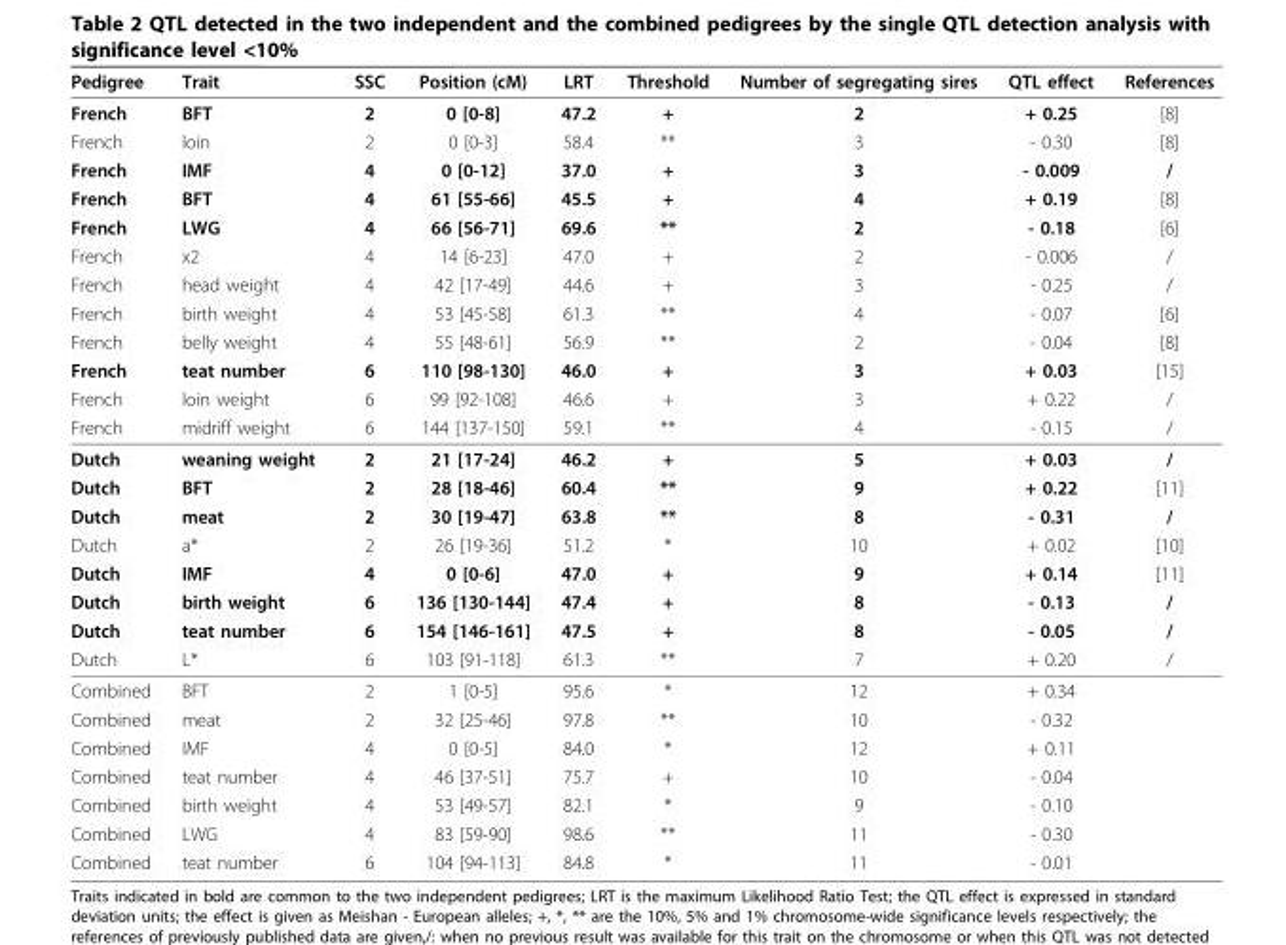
<table><thead><tr><td>Pedigree</td><td>Trait</td><td>SSC</td><td>Position (cM)</td><td>LRT</td><td>Threshold</td><td>Number of segregating sires</td><td>QTL effect</td><td>References</td></tr></thead><tbody><tr><td>French</td><td>BFT</td><td>2</td><td>0 [0-8]</td><td>47.2</td><td>+</td><td>2</td><td>+ 0.25</td><td>[8]</td></tr><tr><td>French</td><td>loin</td><td>2</td><td>0 [0-3]</td><td>58.4</td><td>**</td><td>3</td><td>- 0.30</td><td>[8]</td></tr><tr><td>French</td><td>IMF</td><td>4</td><td>0 [0-12]</td><td>37.0</td><td>+</td><td>3</td><td>- 0.009</td><td>/</td></tr><tr><td>French</td><td>BFT</td><td>4</td><td>61 [55-66]</td><td>45.5</td><td>+</td><td>4</td><td>+ 0.19</td><td>[8]</td></tr><tr><td>French</td><td>LWG</td><td>4</td><td>66 [56-71]</td><td>69.6</td><td>**</td><td>2</td><td>- 0.18</td><td>[6]</td></tr><tr><td>French</td><td>x2</td><td>4</td><td>14 [6-23]</td><td>47.0</td><td>+</td><td>2</td><td>- 0.006</td><td>/</td></tr><tr><td>French</td><td>head weight</td><td>4</td><td>42 [17-49]</td><td>44.6</td><td>+</td><td>3</td><td>- 0.25</td><td>/</td></tr><tr><td>French</td><td>birth weight</td><td>4</td><td>53 [45-58]</td><td>61.3</td><td>**</td><td>4</td><td>- 0.07</td><td>[6]</td></tr><tr><td>French</td><td>belly weight</td><td>4</td><td>55 [48-61]</td><td>56.9</td><td>**</td><td>2</td><td>- 0.04</td><td>[8]</td></tr><tr><td>French</td><td>teat number</td><td>6</td><td>110 [98-130]</td><td>46.0</td><td>+</td><td>3</td><td>+ 0.03</td><td>[15]</td></tr><tr><td>French</td><td>loin weight</td><td>6</td><td>99 [92-108]</td><td>46.6</td><td>+</td><td>3</td><td>+ 0.22</td><td>/</td></tr><tr><td>French</td><td>midriff weight</td><td>6</td><td>144 [137-150]</td><td>59.1</td><td>**</td><td>4</td><td>- 0.15</td><td>/</td></tr><tr><td>Dutch</td><td>weaning weight</td><td>2</td><td>21 [17-24]</td><td>46.2</td><td>+</td><td>5</td><td>+ 0.03</td><td>/</td></tr><tr><td>Dutch</td><td>BFT</td><td>2</td><td>28 [18-46]</td><td>60.4</td><td>**</td><td>9</td><td>+ 0.22</td><td>[11]</td></tr><tr><td>Dutch</td><td>meat</td><td>2</td><td>30 [19-47]</td><td>63.8</td><td>**</td><td>8</td><td>- 0.31</td><td>/</td></tr><tr><td>Dutch</td><td>a*</td><td>2</td><td>26 [19-36]</td><td>51.2</td><td>*</td><td>10</td><td>+ 0.02</td><td>[10]</td></tr><tr><td>Dutch</td><td>IMF</td><td>4</td><td>0 [0-6]</td><td>47.0</td><td>+</td><td>9</td><td>+ 0.14</td><td>[11]</td></tr><tr><td>Dutch</td><td>birth weight</td><td>6</td><td>136 [130-144]</td><td>47.4</td><td>+</td><td>8</td><td>- 0.13</td><td>/</td></tr><tr><td>Dutch</td><td>teat number</td><td>6</td><td>154 [146-161]</td><td>47.5</td><td>+</td><td>8</td><td>- 0.05</td><td>/</td></tr><tr><td>Dutch</td><td>L*</td><td>6</td><td>103 [91-118]</td><td>61.3</td><td>**</td><td>7</td><td>+ 0.20</td><td>/</td></tr><tr><td>Combined</td><td>BFT</td><td>2</td><td>1 [0-5]</td><td>95.6</td><td>*</td><td>12</td><td>+ 0.34</td><td></td></tr><tr><td>Combined</td><td>meat</td><td>2</td><td>32 [25-46]</td><td>97.8</td><td>**</td><td>10</td><td>- 0.32</td><td></td></tr><tr><td>Combined</td><td>IMF</td><td>4</td><td>0 [0-5]</td><td>84.0</td><td>*</td><td>12</td><td>+ 0.11</td><td></td></tr><tr><td>Combined</td><td>teat number</td><td>4</td><td>46 [37-51]</td><td>75.7</td><td>+</td><td>10</td><td>- 0.04</td><td></td></tr><tr><td>Combined</td><td>birth weight</td><td>4</td><td>53 [49-57]</td><td>82.1</td><td>*</td><td>9</td><td>- 0.10</td><td></td></tr><tr><td>Combined</td><td>LWG</td><td>4</td><td>83 [59-90]</td><td>98.6</td><td>**</td><td>11</td><td>- 0.30</td><td></td></tr><tr><td>Combined</td><td>teat number</td><td>6</td><td>104 [94-113]</td><td>84.8</td><td>*</td><td>11</td><td>- 0.01</td><td></td></tr></tbody></table>